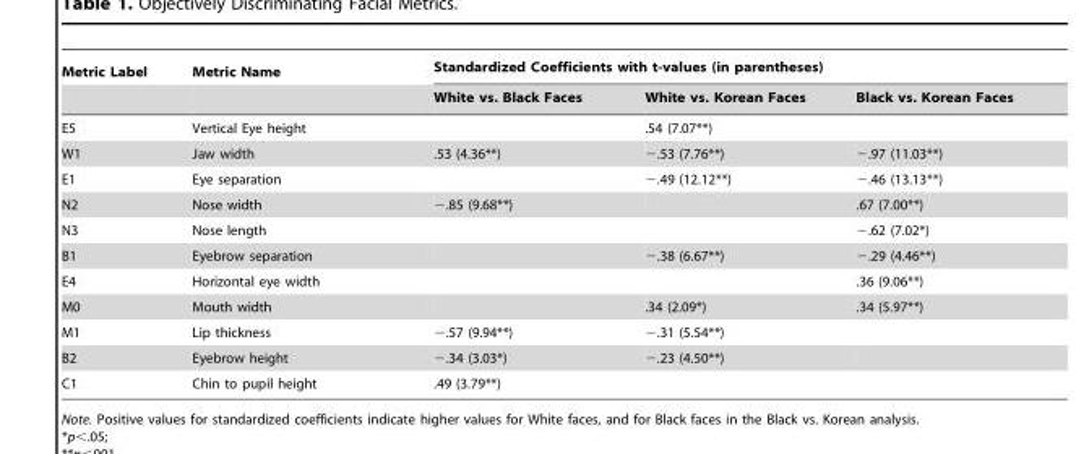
<table><thead><tr><td rowspan="2">Metric Label</td><td rowspan="2">Metric Name</td><td colspan="3">Standardized Coefficients with t-values (in parentheses)</td></tr><tr><td>White vs. Black Faces</td><td>White vs. Korean Faces</td><td>Black vs. Korean Faces</td></tr></thead><tbody><tr><td>E5</td><td>Vertical Eye height</td><td></td><td>.54 (7.07**)</td><td></td></tr><tr><td>W1</td><td>Jaw width</td><td>.53 (4.36**)</td><td>−.53 (7.76**)</td><td>−.97 (11.03**)</td></tr><tr><td>E1</td><td>Eye separation</td><td></td><td>−.49 (12.12**)</td><td>−.46 (13.13**)</td></tr><tr><td>N2</td><td>Nose width</td><td>−.85 (9.68**)</td><td></td><td>.67 (7.00**)</td></tr><tr><td>N3</td><td>Nose length</td><td></td><td></td><td>−.62 (7.02*)</td></tr><tr><td>B1</td><td>Eyebrow separation</td><td></td><td>−.38 (6.67**)</td><td>−.29 (4.46**)</td></tr><tr><td>E4</td><td>Horizontal eye width</td><td></td><td></td><td>.36 (9.06**)</td></tr><tr><td>M0</td><td>Mouth width</td><td></td><td>.34 (2.09*)</td><td>.34 (5.97**)</td></tr><tr><td>M1</td><td>Lip thickness</td><td>−.57 (9.94**)</td><td>−.31 (5.54**)</td><td></td></tr><tr><td>B2</td><td>Eyebrow height</td><td>−.34 (3.03*)</td><td>−.23 (4.50**)</td><td></td></tr><tr><td>C1</td><td>Chin to pupil height</td><td>.49 (3.79**)</td><td></td><td></td></tr></tbody></table>